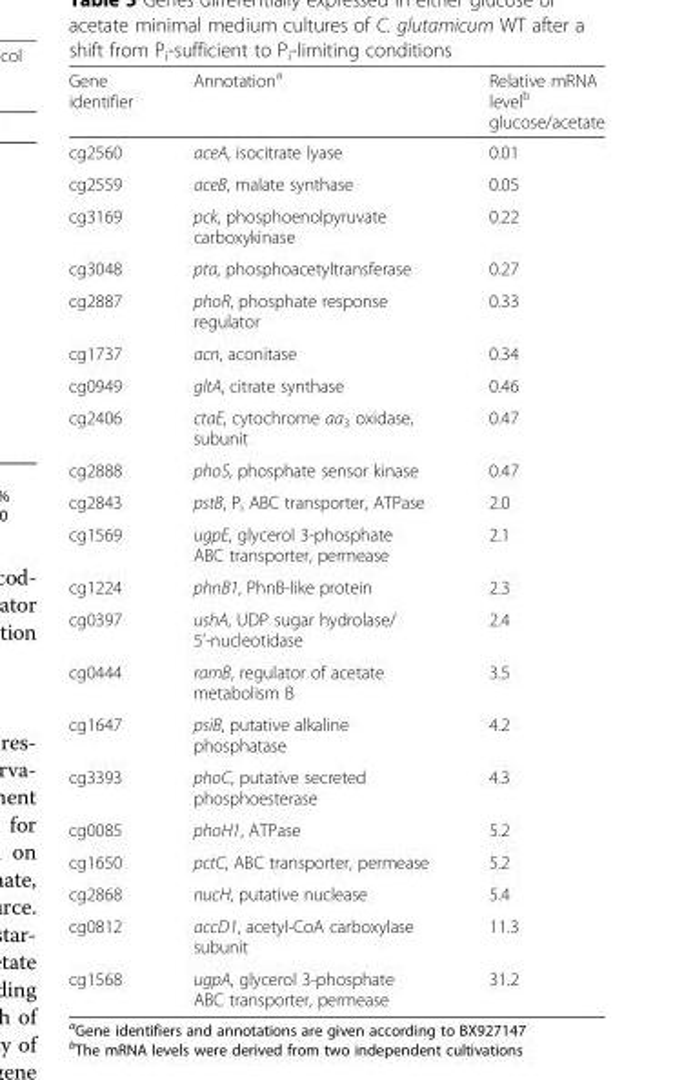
<table><thead><tr><td>Gene identifier</td><td>Annotation<sup>a</sup></td><td>Relative mRNA level<sup>b</sup> glucose/acetate</td></tr></thead><tbody><tr><td>cg2560</td><td>aceA, isocitrate lyase</td><td>0.01</td></tr><tr><td>cg2559</td><td>aceB, malate synthase</td><td>0.05</td></tr><tr><td>cg3169</td><td>pck, phosphoenolpyruvate carboxykinase</td><td>0.22</td></tr><tr><td>cg3048</td><td>pta, phosphoacetyltransferase</td><td>0.27</td></tr><tr><td>cg2887</td><td>phoR, phosphate response regulator</td><td>0.33</td></tr><tr><td>cg1737</td><td>acn, aconitase</td><td>0.34</td></tr><tr><td>cg0949</td><td>gltA, citrate synthase</td><td>0.46</td></tr><tr><td>cg2406</td><td>ctaE, cytochrome aa<sub>3</sub> oxidase, subunit</td><td>0.47</td></tr><tr><td>cg2888</td><td>phoS, phosphate sensor kinase</td><td>0.47</td></tr><tr><td>cg2843</td><td>pstB, P<sub>i</sub> ABC transporter, ATPase</td><td>2.0</td></tr><tr><td>cg1569</td><td>ugpE, glycerol 3-phosphate ABC transporter, permease</td><td>2.1</td></tr><tr><td>cg1224</td><td>phnB1, PhnB-like protein</td><td>2.3</td></tr><tr><td>cg0397</td><td>ushA, UDP sugar hydrolase/ 5’-nucleotidase</td><td>2.4</td></tr><tr><td>cg0444</td><td>ramB, regulator of acetate metabolism B</td><td>3.5</td></tr><tr><td>cg1647</td><td>psiB, putative alkaline phosphatase</td><td>4.2</td></tr><tr><td>cg3393</td><td>phoC, putative secreted phosphoesterase</td><td>4.3</td></tr><tr><td>cg0085</td><td>phoH1, ATPase</td><td>5.2</td></tr><tr><td>cg1650</td><td>pctC, ABC transporter, permease</td><td>5.2</td></tr><tr><td>cg2868</td><td>nucH, putative nuclease</td><td>5.4</td></tr><tr><td>cg0812</td><td>accD1, acetyl-CoA carboxylase subunit</td><td>11.3</td></tr><tr><td>cg1568</td><td>ugpA, glycerol 3-phosphate ABC transporter, permease</td><td>31.2</td></tr></tbody></table>